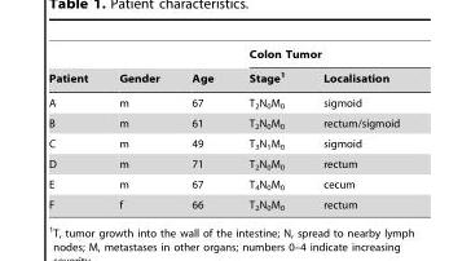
<table><thead><tr><td rowspan="2">Patient</td><td rowspan="2">Gender</td><td rowspan="2">Age</td><td colspan="2">Colon Tumor</td></tr><tr><td>Stage<sup>1</sup></td><td>Localisation</td></tr></thead><tbody><tr><td>A</td><td>m</td><td>67</td><td>T<sub>2</sub>N<sub>0</sub>M<sub>0</sub></td><td>sigmoid</td></tr><tr><td>B</td><td>m</td><td>61</td><td>T<sub>2</sub>N<sub>0</sub>M<sub>0</sub></td><td>rectum/sigmoid</td></tr><tr><td>C</td><td>m</td><td>49</td><td>T<sub>3</sub>N<sub>1</sub>M<sub>0</sub></td><td>sigmoid</td></tr><tr><td>D</td><td>m</td><td>71</td><td>T<sub>2</sub>N<sub>0</sub>M<sub>0</sub></td><td>rectum</td></tr><tr><td>E</td><td>m</td><td>67</td><td>T<sub>4</sub>N<sub>0</sub>M<sub>0</sub></td><td>cecum</td></tr><tr><td>F</td><td>f</td><td>66</td><td>T<sub>2</sub>N<sub>0</sub>M<sub>0</sub></td><td>rectum</td></tr></tbody></table>